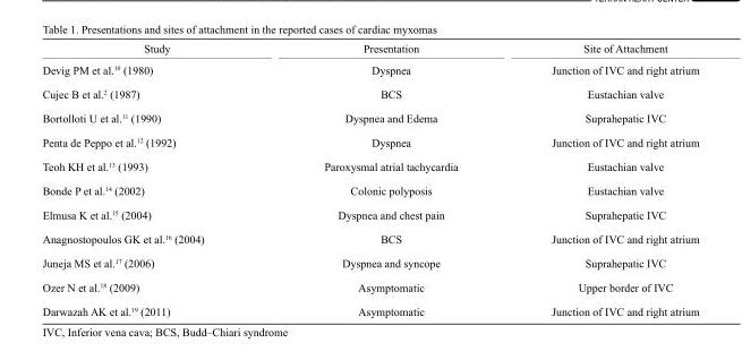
<table><thead><tr><td>Study</td><td>Presentation</td><td>Site of Attachment</td></tr></thead><tbody><tr><td>Devig PM et al.<sup>10</sup> (1980)</td><td>Dyspnea</td><td>Junction of IVC and right atrium</td></tr><tr><td>Cujec B et al.<sup>2</sup> (1987)</td><td>BCS</td><td>Eustachian valve</td></tr><tr><td>Bortolloti U et al.<sup>11</sup> (1990)</td><td>Dyspnea and Edema</td><td>Suprahepatic IVC</td></tr><tr><td>Penta de Peppo et al.<sup>12</sup> (1992)</td><td>Dyspnea</td><td>Junction of IVC and right atrium</td></tr><tr><td>Teoh KH et al.<sup>13</sup> (1993)</td><td>Paroxysmal atrial tachycardia</td><td>Eustachian valve</td></tr><tr><td>Bonde P et al.<sup>14</sup> (2002)</td><td>Colonic polyposis</td><td>Eustachian valve</td></tr><tr><td>Elmusa K et al.<sup>15</sup> (2004)</td><td>Dyspnea and chest pain</td><td>Suprahepatic IVC</td></tr><tr><td>Anagnostopoulos GK et al.<sup>16</sup> (2004)</td><td>BCS</td><td>Junction of IVC and right atrium</td></tr><tr><td>Juneja MS et al.<sup>17</sup> (2006)</td><td>Dyspnea and syncope</td><td>Suprahepatic IVC</td></tr><tr><td>Ozer N et al.<sup>18</sup> (2009)</td><td>Asymptomatic</td><td>Upper border of IVC</td></tr><tr><td>Darwazah AK et al.<sup>19</sup> (2011)</td><td>Asymptomatic</td><td>Junction of IVC and right atrium</td></tr></tbody></table>